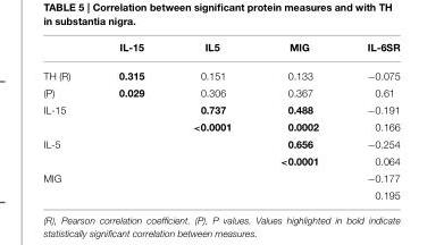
<table><thead><tr><td></td><td>IL-15</td><td>IL5</td><td>MIG</td><td>IL-6SR</td></tr></thead><tbody><tr><td>TH (R)</td><td>0.315</td><td>0.151</td><td>0.133</td><td>−0.075</td></tr><tr><td>(P)</td><td>0.029</td><td>0.306</td><td>0.367</td><td>0.61</td></tr><tr><td rowspan="2">IL-15</td><td></td><td>0.737</td><td>0.488</td><td>−0.191</td></tr><tr><td></td><td>&lt;0.0001</td><td>0.0002</td><td>0.166</td></tr><tr><td rowspan="2">IL-5</td><td></td><td></td><td>0.656</td><td>−0.254</td></tr><tr><td></td><td></td><td>&lt;0.0001</td><td>0.064</td></tr><tr><td rowspan="2">MIG</td><td></td><td></td><td></td><td>−0.177</td></tr><tr><td></td><td></td><td></td><td>0.195</td></tr></tbody></table>